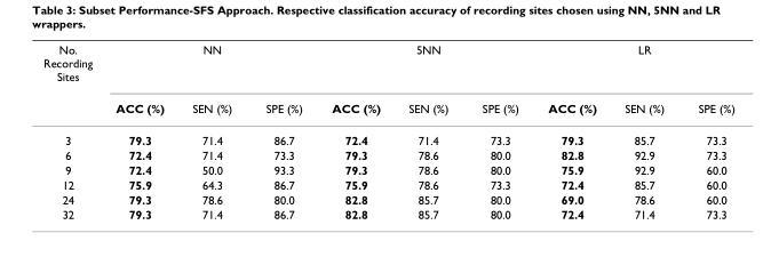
<table><thead><tr><td rowspan="2">No. Recording Sites</td><td colspan="3">NN</td><td colspan="3">5NN</td><td colspan="3">LR</td></tr><tr><td>ACC (%)</td><td>SEN (%)</td><td>SPE (%)</td><td>ACC (%)</td><td>SEN (%)</td><td>SPE (%)</td><td>ACC (%)</td><td>SEN (%)</td><td>SPE (%)</td></tr></thead><tbody><tr><td>3</td><td>79.3</td><td>71.4</td><td>86.7</td><td>72.4</td><td>71.4</td><td>73.3</td><td>79.3</td><td>85.7</td><td>73.3</td></tr><tr><td>6</td><td>72.4</td><td>71.4</td><td>73.3</td><td>79.3</td><td>78.6</td><td>80.0</td><td>82.8</td><td>92.9</td><td>73.3</td></tr><tr><td>9</td><td>72.4</td><td>50.0</td><td>93.3</td><td>79.3</td><td>78.6</td><td>80.0</td><td>75.9</td><td>92.9</td><td>60.0</td></tr><tr><td>12</td><td>75.9</td><td>64.3</td><td>86.7</td><td>75.9</td><td>78.6</td><td>73.3</td><td>72.4</td><td>85.7</td><td>60.0</td></tr><tr><td>24</td><td>79.3</td><td>78.6</td><td>80.0</td><td>82.8</td><td>85.7</td><td>80.0</td><td>69.0</td><td>78.6</td><td>60.0</td></tr><tr><td>32</td><td>79.3</td><td>71.4</td><td>86.7</td><td>82.8</td><td>85.7</td><td>80.0</td><td>72.4</td><td>71.4</td><td>73.3</td></tr></tbody></table>